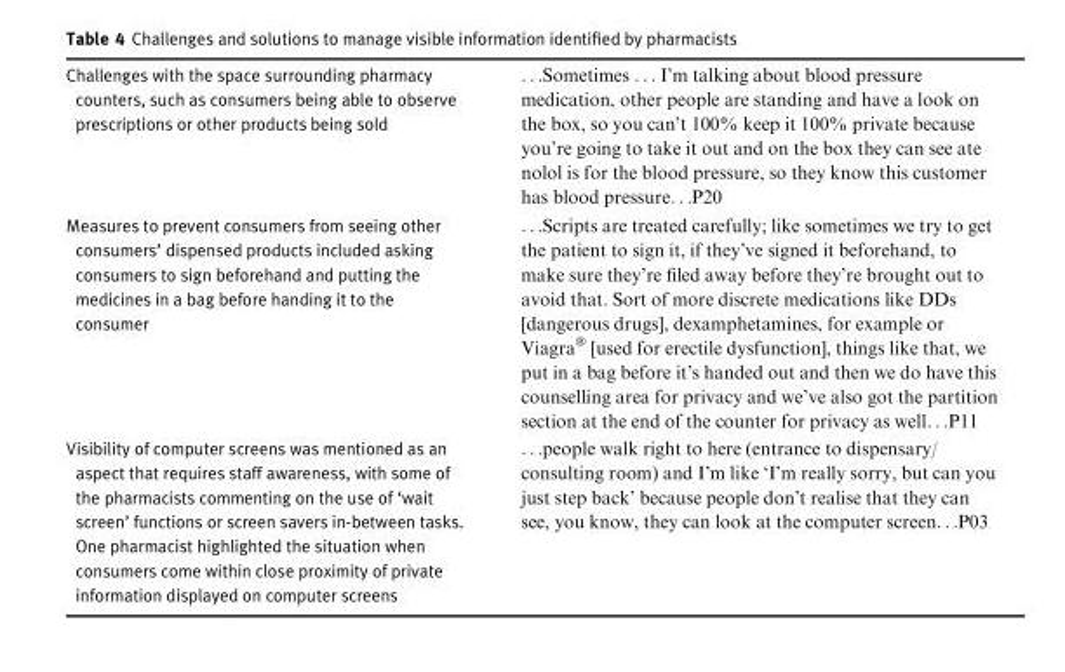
<table><tbody><tr><td>Challenges with the space surrounding pharmacy counters, such as consumers being able to observe prescriptions or other products being sold</td><td>. . .Sometimes . . . I’m talking about blood pressure medication, other people are standing and have a look on the box, so you can’t 100% keep it 100% private because you’re going to take it out and on the box they can see ate nolol is for the blood pressure, so they know this customer has blood pressure. . .P20</td></tr><tr><td>Measures to prevent consumers from seeing other consumers’ dispensed products included asking consumers to sign beforehand and putting the medicines in a bag before handing it to the consumer</td><td>. . .Scripts are treated carefully; like sometimes we try to get the patient to sign it, if they’ve signed it beforehand, to make sure they’re filed away before they’re brought out to avoid that. Sort of more discrete medications like DDs [dangerous drugs], dexamphetamines, for example or Viagra� [used for erectile dysfunction], things like that, we put in a bag before it’s handed out and then we do have this counselling area for privacy and we’ve also got the partition section at the end of the counter for privacy as well. . .P11</td></tr><tr><td>Visibility of computer screens was mentioned as an aspect that requires staff awareness, with some of the pharmacists commenting on the use of ‘wait screen’ functions or screen savers in-between tasks. One pharmacist highlighted the situation when consumers come within close proximity of private information displayed on computer screens</td><td>. . .people walk right to here (entrance to dispensary/ consulting room) and I’m like ‘I’m really sorry, but can you just step back’ because people don’t realise that they can see, you know, they can look at the computer screen. . .P03</td></tr></tbody></table>